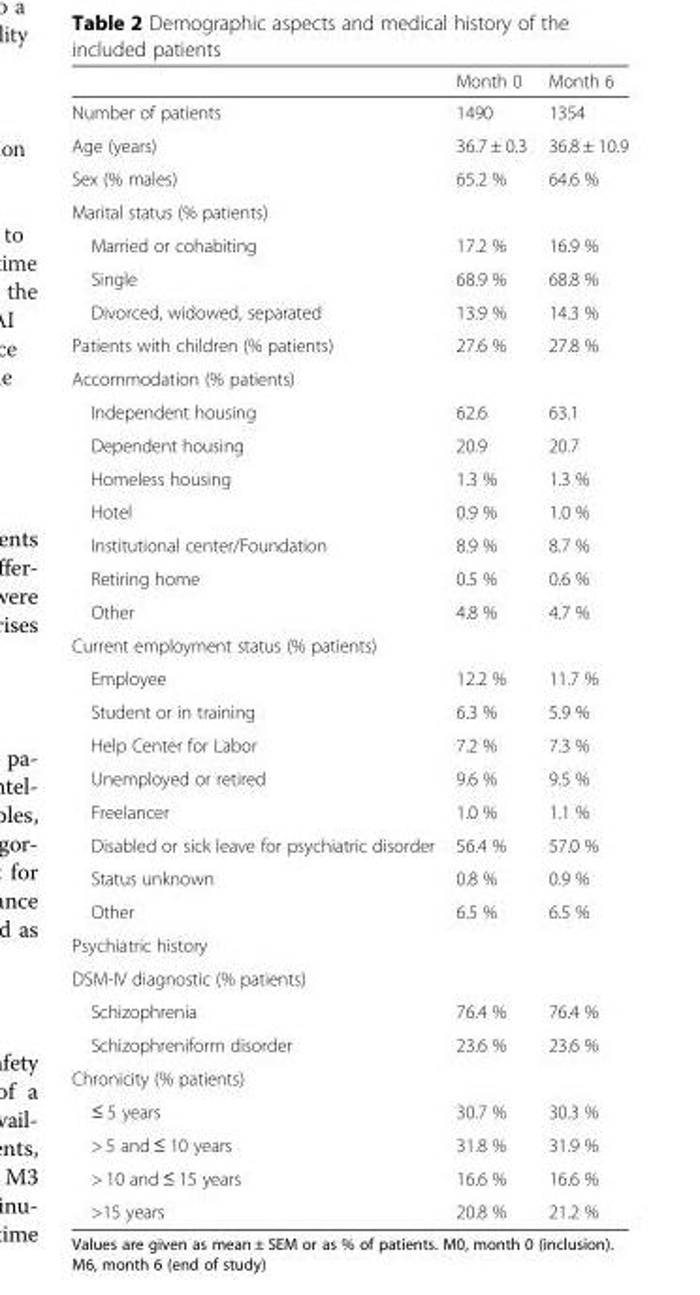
<table><thead><tr><td></td><td>Month 0</td><td>Month 6</td></tr></thead><tbody><tr><td>Number of patients</td><td>1490</td><td>1354</td></tr><tr><td>Age (years)</td><td>36.7 ± 0.3</td><td>36.8 ± 10.9</td></tr><tr><td>Sex (% males)</td><td>65.2 %</td><td>64.6 %</td></tr><tr><td colspan="3">Marital status (% patients)</td></tr><tr><td>Married or cohabiting</td><td>17.2 %</td><td>16.9 %</td></tr><tr><td>Single</td><td>68.9 %</td><td>68.8 %</td></tr><tr><td>Divorced, widowed, separated</td><td>13.9 %</td><td>14.3 %</td></tr><tr><td>Patients with children (% patients)</td><td>27.6 %</td><td>27.8 %</td></tr><tr><td colspan="3">Accommodation (% patients)</td></tr><tr><td>Independent housing</td><td>62.6</td><td>63.1</td></tr><tr><td>Dependent housing</td><td>20.9</td><td>20.7</td></tr><tr><td>Homeless housing</td><td>1.3 %</td><td>1.3 %</td></tr><tr><td>Hotel</td><td>0.9 %</td><td>1.0 %</td></tr><tr><td>Institutional center/Foundation</td><td>8.9 %</td><td>8.7 %</td></tr><tr><td>Retiring home</td><td>0.5 %</td><td>0.6 %</td></tr><tr><td>Other</td><td>4.8 %</td><td>4.7 %</td></tr><tr><td colspan="3">Current employment status (% patients)</td></tr><tr><td>Employee</td><td>12.2 %</td><td>11.7 %</td></tr><tr><td>Student or in training</td><td>6.3 %</td><td>5.9 %</td></tr><tr><td>Help Center for Labor</td><td>7.2 %</td><td>7.3 %</td></tr><tr><td>Unemployed or retired</td><td>9.6 %</td><td>9.5 %</td></tr><tr><td>Freelancer</td><td>1.0 %</td><td>1.1 %</td></tr><tr><td>Disabled or sick leave for psychiatric disorder</td><td>56.4 %</td><td>57.0 %</td></tr><tr><td>Status unknown</td><td>0.8 %</td><td>0.9 %</td></tr><tr><td>Other</td><td>6.5 %</td><td>6.5 %</td></tr><tr><td colspan="3">Psychiatric history</td></tr><tr><td colspan="3">DSM-IV diagnostic (% patients)</td></tr><tr><td>Schizophrenia</td><td>76.4 %</td><td>76.4 %</td></tr><tr><td>Schizophreniform disorder</td><td>23.6 %</td><td>23.6 %</td></tr><tr><td colspan="3">Chronicity (% patients)</td></tr><tr><td>≤ 5 years</td><td>30.7 %</td><td>30.3 %</td></tr><tr><td>&gt; 5 and ≤ 10 years</td><td>31.8 %</td><td>31.9 %</td></tr><tr><td>&gt; 10 and ≤ 15 years</td><td>16.6 %</td><td>16.6 %</td></tr><tr><td>&gt;15 years</td><td>20.8 %</td><td>21.2 %</td></tr></tbody></table>